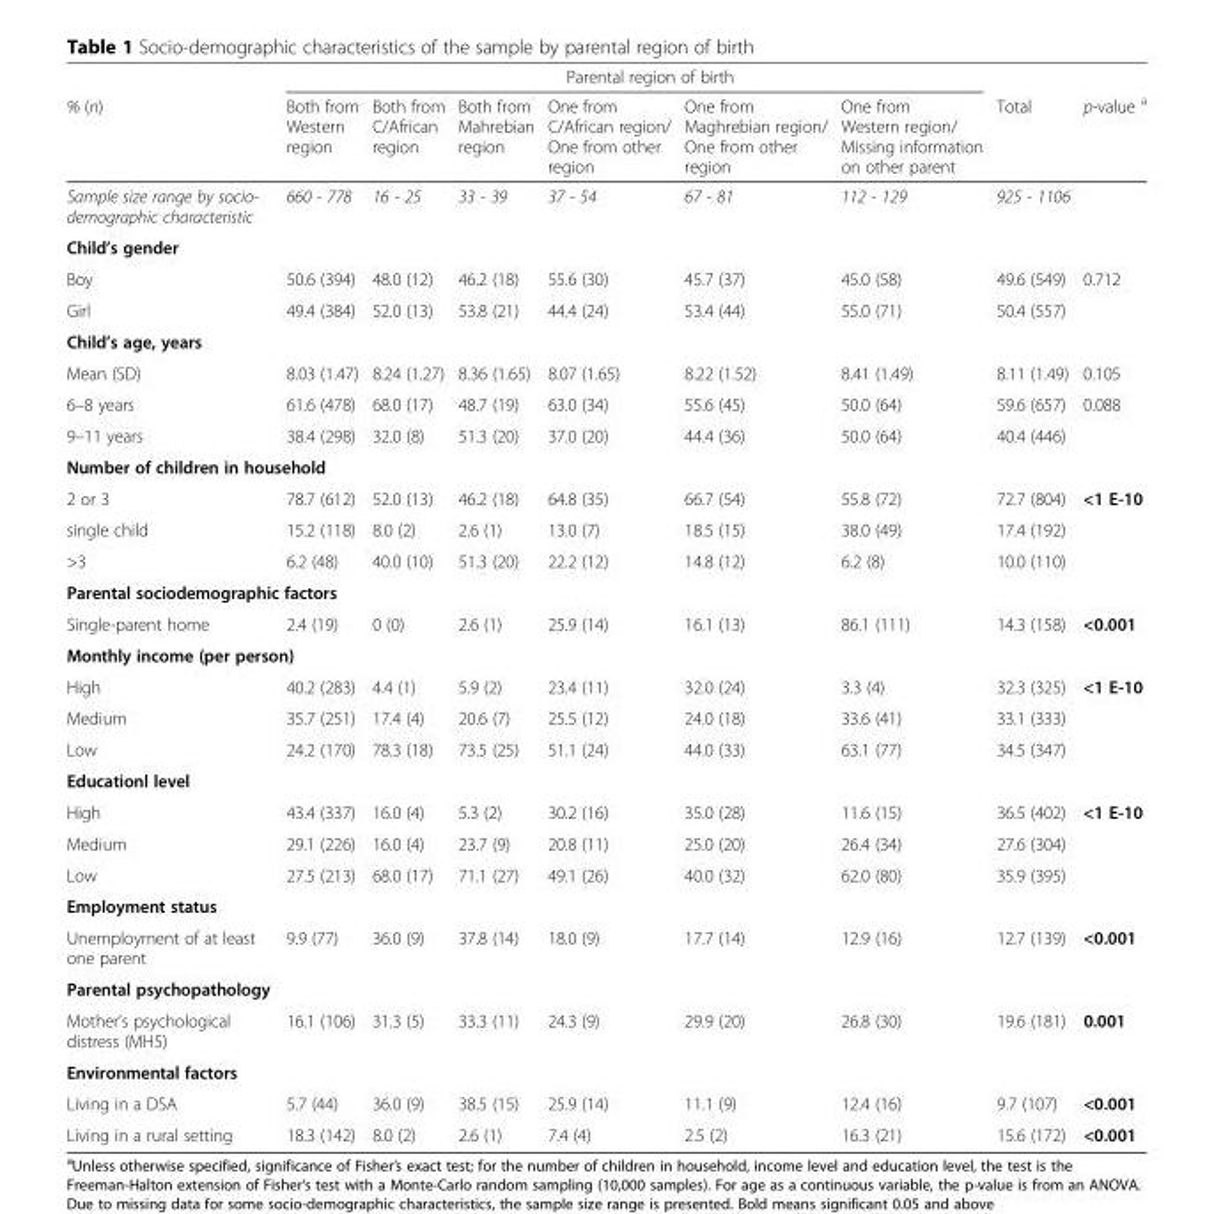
<table><thead><tr><td rowspan="2">% (n)</td><td colspan="6">Parental region of birth</td><td rowspan="2">Total</td><td rowspan="2">p-value <sup>a</sup></td></tr><tr><td>Both from Western region</td><td>Both from C/African region</td><td>Both from Mahrebian region</td><td>One from C/African region/ One from other region</td><td>One from Maghrebian region/ One from other region</td><td>One from Western region/ Missing information on other parent</td></tr></thead><tbody><tr><td>Sample size range by socio- demographic characteristic</td><td>660 - 778</td><td>16 - 25</td><td>33 - 39</td><td>37 - 54</td><td>67 - 81</td><td>112 - 129</td><td>925 - 1106</td><td></td></tr><tr><td colspan="9">Child’s gender</td></tr><tr><td>Boy</td><td>50.6 (394)</td><td>48.0 (12)</td><td>46.2 (18)</td><td>55.6 (30)</td><td>45.7 (37)</td><td>45.0 (58)</td><td>49.6 (549)</td><td rowspan="2">0.712</td></tr><tr><td>Girl</td><td>49.4 (384)</td><td>52.0 (13)</td><td>53.8 (21)</td><td>44.4 (24)</td><td>53.4 (44)</td><td>55.0 (71)</td><td>50.4 (557)</td></tr><tr><td colspan="9">Child’s age, years</td></tr><tr><td>Mean (SD)</td><td>8.03 (1.47)</td><td>8.24 (1.27)</td><td>8.36 (1.65)</td><td>8.07 (1.65)</td><td>8.22 (1.52)</td><td>8.41 (1.49)</td><td>8.11 (1.49)</td><td>0.105</td></tr><tr><td>6–8 years</td><td>61.6 (478)</td><td>68.0 (17)</td><td>48.7 (19)</td><td>63.0 (34)</td><td>55.6 (45)</td><td>50.0 (64)</td><td>59.6 (657)</td><td rowspan="2">0.088</td></tr><tr><td>9–11 years</td><td>38.4 (298)</td><td>32.0 (8)</td><td>51.3 (20)</td><td>37.0 (20)</td><td>44.4 (36)</td><td>50.0 (64)</td><td>40.4 (446)</td></tr><tr><td colspan="9">Number of children in household</td></tr><tr><td>2 or 3</td><td>78.7 (612)</td><td>52.0 (13)</td><td>46.2 (18)</td><td>64.8 (35)</td><td>66.7 (54)</td><td>55.8 (72)</td><td>72.7 (804)</td><td rowspan="3">&lt;1 E-10</td></tr><tr><td>single child</td><td>15.2 (118)</td><td>8.0 (2)</td><td>2.6 (1)</td><td>13.0 (7)</td><td>18.5 (15)</td><td>38.0 (49)</td><td>17.4 (192)</td></tr><tr><td>&gt;3</td><td>6.2 (48)</td><td>40.0 (10)</td><td>51.3 (20)</td><td>22.2 (12)</td><td>14.8 (12)</td><td>6.2 (8)</td><td>10.0 (110)</td></tr><tr><td colspan="9">Parental sociodemographic factors</td></tr><tr><td>Single-parent home</td><td>2.4 (19)</td><td>0 (0)</td><td>2.6 (1)</td><td>25.9 (14)</td><td>16.1 (13)</td><td>86.1 (111)</td><td>14.3 (158)</td><td>&lt;0.001</td></tr><tr><td colspan="9">Monthly income (per person)</td></tr><tr><td>High</td><td>40.2 (283)</td><td>4.4 (1)</td><td>5.9 (2)</td><td>23.4 (11)</td><td>32.0 (24)</td><td>3.3 (4)</td><td>32.3 (325)</td><td rowspan="3">&lt;1 E-10</td></tr><tr><td>Medium</td><td>35.7 (251)</td><td>17.4 (4)</td><td>20.6 (7)</td><td>25.5 (12)</td><td>24.0 (18)</td><td>33.6 (41)</td><td>33.1 (333)</td></tr><tr><td>Low</td><td>24.2 (170)</td><td>78.3 (18)</td><td>73.5 (25)</td><td>51.1 (24)</td><td>44.0 (33)</td><td>63.1 (77)</td><td>34.5 (347)</td></tr><tr><td colspan="9">Educationl level</td></tr><tr><td>High</td><td>43.4 (337)</td><td>16.0 (4)</td><td>5.3 (2)</td><td>30.2 (16)</td><td>35.0 (28)</td><td>11.6 (15)</td><td>36.5 (402)</td><td rowspan="3">&lt;1 E-10</td></tr><tr><td>Medium</td><td>29.1 (226)</td><td>16.0 (4)</td><td>23.7 (9)</td><td>20.8 (11)</td><td>25.0 (20)</td><td>26.4 (34)</td><td>27.6 (304)</td></tr><tr><td>Low</td><td>27.5 (213)</td><td>68.0 (17)</td><td>71.1 (27)</td><td>49.1 (26)</td><td>40.0 (32)</td><td>62.0 (80)</td><td>35.9 (395)</td></tr><tr><td colspan="9">Employment status</td></tr><tr><td>Unemployment of at least one parent</td><td>9.9 (77)</td><td>36.0 (9)</td><td>37.8 (14)</td><td>18.0 (9)</td><td>17.7 (14)</td><td>12.9 (16)</td><td>12.7 (139)</td><td>&lt;0.001</td></tr><tr><td colspan="9">Parental psychopathology</td></tr><tr><td>Mother’s psychological distress (MH5)</td><td>16.1 (106)</td><td>31.3 (5)</td><td>33.3 (11)</td><td>24.3 (9)</td><td>29.9 (20)</td><td>26.8 (30)</td><td>19.6 (181)</td><td>0.001</td></tr><tr><td colspan="9">Environmental factors</td></tr><tr><td>Living in a DSA</td><td>5.7 (44)</td><td>36.0 (9)</td><td>38.5 (15)</td><td>25.9 (14)</td><td>11.1 (9)</td><td>12.4 (16)</td><td>9.7 (107)</td><td>&lt;0.001</td></tr><tr><td>Living in a rural setting</td><td>18.3 (142)</td><td>8.0 (2)</td><td>2.6 (1)</td><td>7.4 (4)</td><td>2.5 (2)</td><td>16.3 (21)</td><td>15.6 (172)</td><td>&lt;0.001</td></tr></tbody></table>